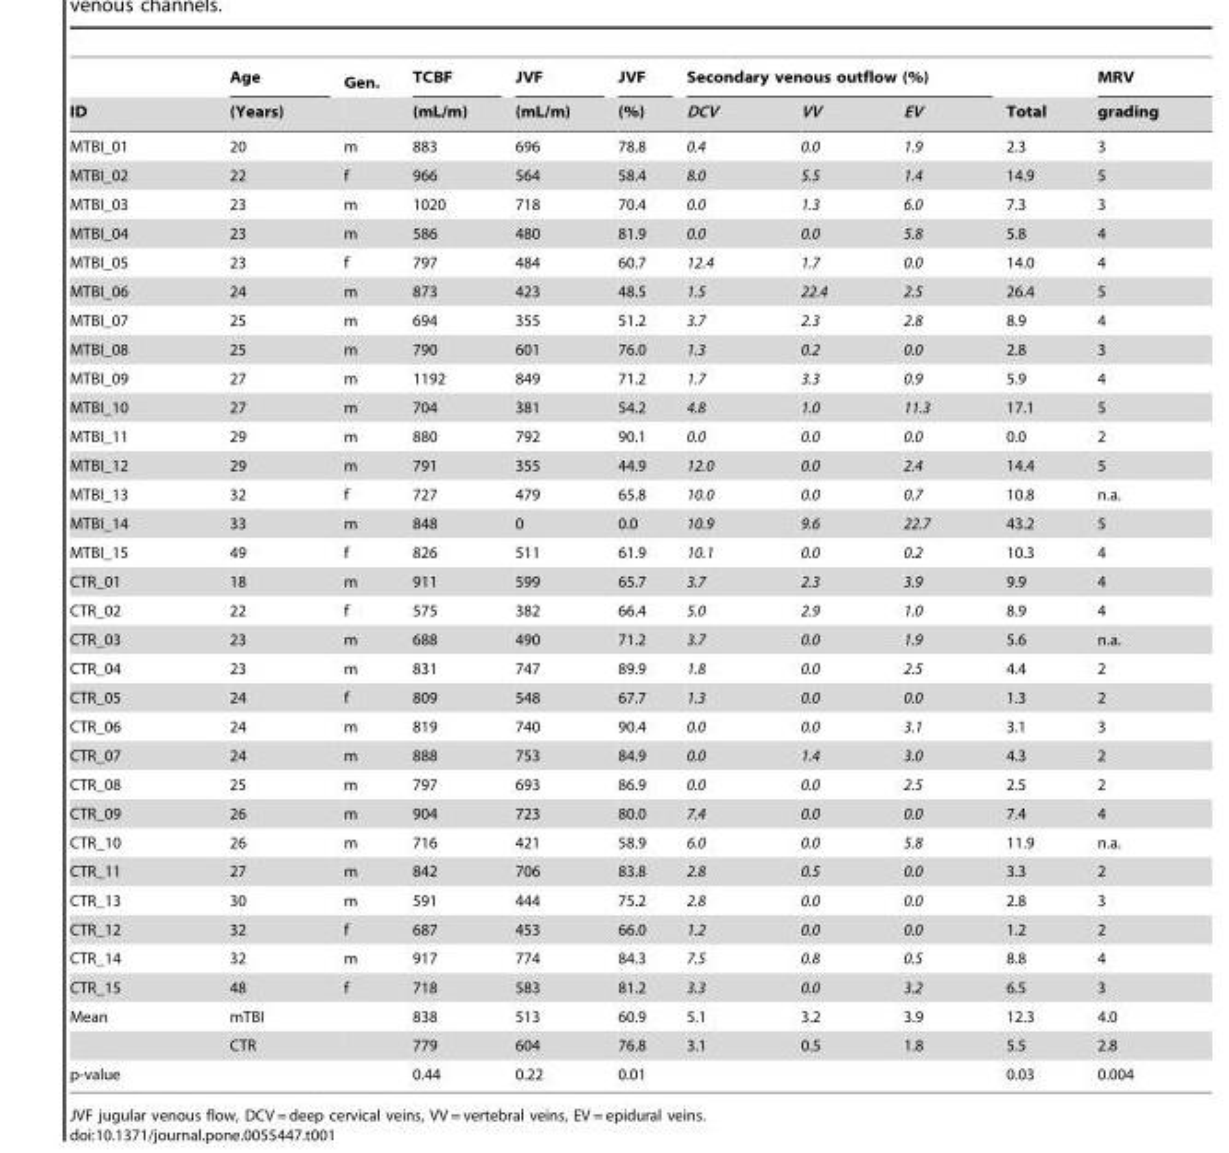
<table><thead><tr><td rowspan="2">ID</td><td rowspan="2">Age (Years)</td><td rowspan="2">Gen.</td><td rowspan="2">TCBF (mL/m)</td><td rowspan="2">JVF (mL/m)</td><td rowspan="2">JVF (%)</td><td colspan="3">Secondary venous outflow (%)</td><td rowspan="2">Total</td><td rowspan="2">MRV grading</td></tr><tr><td>DCV</td><td>VV</td><td>EV</td></tr></thead><tbody><tr><td>MTBI_01</td><td>20</td><td>m</td><td>883</td><td>696</td><td>78.8</td><td>0.4</td><td>0.0</td><td>1.9</td><td>2.3</td><td>3</td></tr><tr><td>MTBI_02</td><td>22</td><td>f</td><td>966</td><td>564</td><td>58.4</td><td>8.0</td><td>5.5</td><td>1.4</td><td>14.9</td><td>5</td></tr><tr><td>MTBI_03</td><td>23</td><td>m</td><td>1020</td><td>718</td><td>70.4</td><td>0.0</td><td>1.3</td><td>6.0</td><td>7.3</td><td>3</td></tr><tr><td>MTBI_04</td><td>23</td><td>m</td><td>586</td><td>480</td><td>81.9</td><td>0.0</td><td>0.0</td><td>5.8</td><td>5.8</td><td>4</td></tr><tr><td>MTBI_05</td><td>23</td><td>f</td><td>797</td><td>484</td><td>60.7</td><td>12.4</td><td>1.7</td><td>0.0</td><td>14.0</td><td>4</td></tr><tr><td>MTBI_06</td><td>24</td><td>m</td><td>873</td><td>423</td><td>48.5</td><td>1.5</td><td>22.4</td><td>2.5</td><td>26.4</td><td>5</td></tr><tr><td>MTBI_07</td><td>25</td><td>m</td><td>694</td><td>355</td><td>51.2</td><td>3.7</td><td>2.3</td><td>2.8</td><td>8.9</td><td>4</td></tr><tr><td>MTBI_08</td><td>25</td><td>m</td><td>790</td><td>601</td><td>76.0</td><td>1.3</td><td>0.2</td><td>0.0</td><td>2.8</td><td>3</td></tr><tr><td>MTBI_09</td><td>27</td><td>m</td><td>1192</td><td>849</td><td>71.2</td><td>1.7</td><td>3.3</td><td>0.9</td><td>5.9</td><td>4</td></tr><tr><td>MTBI_10</td><td>27</td><td>m</td><td>704</td><td>381</td><td>54.2</td><td>4.8</td><td>1.0</td><td>11.3</td><td>17.1</td><td>5</td></tr><tr><td>MTBI_11</td><td>29</td><td>m</td><td>880</td><td>792</td><td>90.1</td><td>0.0</td><td>0.0</td><td>0.0</td><td>0.0</td><td>2</td></tr><tr><td>MTBI_12</td><td>29</td><td>m</td><td>791</td><td>355</td><td>44.9</td><td>12.0</td><td>0.0</td><td>2.4</td><td>14.4</td><td>5</td></tr><tr><td>MTBI_13</td><td>32</td><td>f</td><td>727</td><td>479</td><td>65.8</td><td>10.0</td><td>0.0</td><td>0.7</td><td>10.8</td><td>n.a.</td></tr><tr><td>MTBI_14</td><td>33</td><td>m</td><td>848</td><td>0</td><td>0.0</td><td>10.9</td><td>9.6</td><td>22.7</td><td>43.2</td><td>5</td></tr><tr><td>MTBI_15</td><td>49</td><td>f</td><td>826</td><td>511</td><td>61.9</td><td>10.1</td><td>0.0</td><td>0.2</td><td>10.3</td><td>4</td></tr><tr><td>CTR_01</td><td>18</td><td>m</td><td>911</td><td>599</td><td>65.7</td><td>3.7</td><td>2.3</td><td>3.9</td><td>9.9</td><td>4</td></tr><tr><td>CTR_02</td><td>22</td><td>f</td><td>575</td><td>382</td><td>66.4</td><td>5.0</td><td>2.9</td><td>1.0</td><td>8.9</td><td>4</td></tr><tr><td>CTR_03</td><td>23</td><td>m</td><td>688</td><td>490</td><td>71.2</td><td>3.7</td><td>0.0</td><td>1.9</td><td>5.6</td><td>n.a.</td></tr><tr><td>CTR_04</td><td>23</td><td>m</td><td>831</td><td>747</td><td>89.9</td><td>1.8</td><td>0.0</td><td>2.5</td><td>4.4</td><td>2</td></tr><tr><td>CTR_05</td><td>24</td><td>f</td><td>809</td><td>548</td><td>67.7</td><td>1.3</td><td>0.0</td><td>0.0</td><td>1.3</td><td>2</td></tr><tr><td>CTR_06</td><td>24</td><td>m</td><td>819</td><td>740</td><td>90.4</td><td>0.0</td><td>0.0</td><td>3.1</td><td>3.1</td><td>3</td></tr><tr><td>CTR_07</td><td>24</td><td>m</td><td>888</td><td>753</td><td>84.9</td><td>0.0</td><td>1.4</td><td>3.0</td><td>4.3</td><td>2</td></tr><tr><td>CTR_08</td><td>25</td><td>m</td><td>797</td><td>693</td><td>86.9</td><td>0.0</td><td>0.0</td><td>2.5</td><td>2.5</td><td>2</td></tr><tr><td>CTR_09</td><td>26</td><td>m</td><td>904</td><td>723</td><td>80.0</td><td>7.4</td><td>0.0</td><td>0.0</td><td>7.4</td><td>4</td></tr><tr><td>CTR_10</td><td>26</td><td>m</td><td>716</td><td>421</td><td>58.9</td><td>6.0</td><td>0.0</td><td>5.8</td><td>11.9</td><td>n.a.</td></tr><tr><td>CTR_11</td><td>27</td><td>m</td><td>842</td><td>706</td><td>83.8</td><td>2.8</td><td>0.5</td><td>0.0</td><td>3.3</td><td>2</td></tr><tr><td>CTR_13</td><td>30</td><td>m</td><td>591</td><td>444</td><td>75.2</td><td>2.8</td><td>0.0</td><td>0.0</td><td>2.8</td><td>3</td></tr><tr><td>CTR_12</td><td>32</td><td>f</td><td>687</td><td>453</td><td>66.0</td><td>1.2</td><td>0.0</td><td>0.0</td><td>1.2</td><td>2</td></tr><tr><td>CTR_14</td><td>32</td><td>m</td><td>917</td><td>774</td><td>84.3</td><td>7.5</td><td>0.8</td><td>0.5</td><td>8.8</td><td>4</td></tr><tr><td>CTR_15</td><td>48</td><td>f</td><td>718</td><td>583</td><td>81.2</td><td>3.3</td><td>0.0</td><td>3.2</td><td>6.5</td><td>3</td></tr><tr><td rowspan="2">Mean</td><td>mTBI</td><td></td><td>838</td><td>513</td><td>60.9</td><td>5.1</td><td>3.2</td><td>3.9</td><td>12.3</td><td>4.0</td></tr><tr><td>CTR</td><td></td><td>779</td><td>604</td><td>76.8</td><td>3.1</td><td>0.5</td><td>1.8</td><td>5.5</td><td>2.8</td></tr><tr><td>p-value</td><td></td><td></td><td>0.44</td><td>0.22</td><td>0.01</td><td></td><td></td><td></td><td>0.03</td><td>0.004</td></tr></tbody></table>